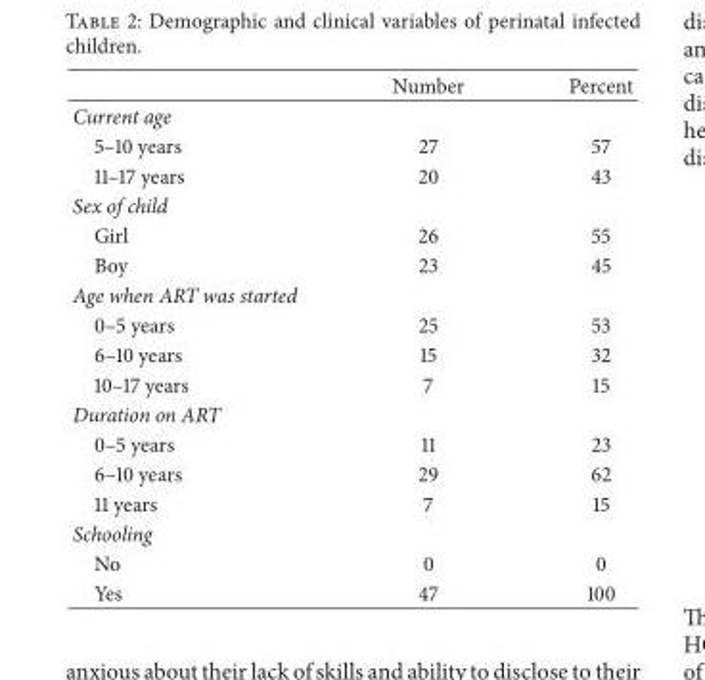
<table><thead><tr><td></td><td>Number</td><td>Percent</td></tr></thead><tbody><tr><td colspan="3">Current age</td></tr><tr><td>5–10 years</td><td>27</td><td>57</td></tr><tr><td>11–17 years</td><td>20</td><td>43</td></tr><tr><td colspan="3">Sex of child</td></tr><tr><td>Girl</td><td>26</td><td>55</td></tr><tr><td>Boy</td><td>23</td><td>45</td></tr><tr><td colspan="3">Age when ART was started</td></tr><tr><td>0–5 years</td><td>25</td><td>53</td></tr><tr><td>6–10 years</td><td>15</td><td>32</td></tr><tr><td>10–17 years</td><td>7</td><td>15</td></tr><tr><td colspan="3">Duration on ART</td></tr><tr><td>0–5 years</td><td>11</td><td>23</td></tr><tr><td>6–10 years</td><td>29</td><td>62</td></tr><tr><td>11 years</td><td>7</td><td>15</td></tr><tr><td colspan="3">Schooling</td></tr><tr><td>No</td><td>0</td><td>0</td></tr><tr><td>Yes</td><td>47</td><td>100</td></tr></tbody></table>